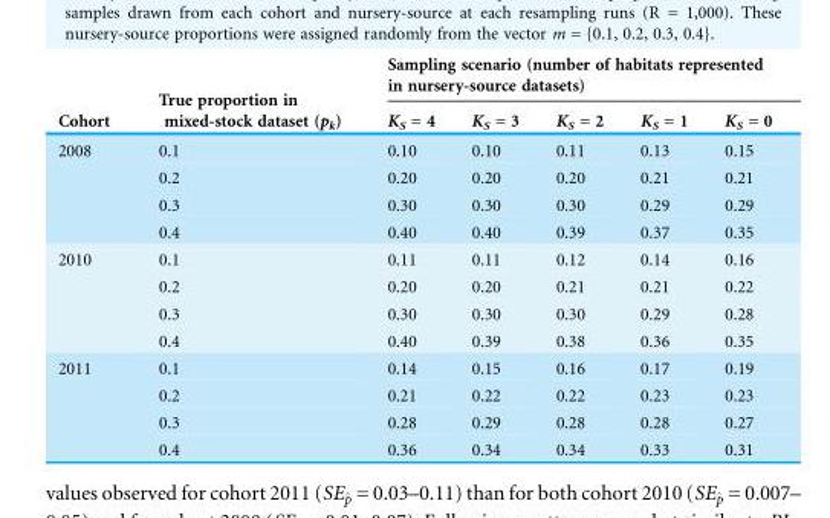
<table><thead><tr><td rowspan="2">Cohort</td><td rowspan="2">True proportion in mixed-stock dataset (p<sub>k</sub>)</td><td colspan="5">Sampling scenario (number of habitats represented in nursery-source datasets)</td></tr><tr><td>K<sub>S</sub> = 4</td><td>K<sub>S</sub> = 3</td><td>K<sub>S</sub> = 2</td><td>K<sub>S</sub> = 1</td><td>K<sub>S</sub> = 0</td></tr></thead><tbody><tr><td rowspan="4">2008</td><td>0.1</td><td>0.10</td><td>0.10</td><td>0.11</td><td>0.13</td><td>0.15</td></tr><tr><td>0.2</td><td>0.20</td><td>0.20</td><td>0.20</td><td>0.21</td><td>0.21</td></tr><tr><td>0.3</td><td>0.30</td><td>0.30</td><td>0.30</td><td>0.29</td><td>0.29</td></tr><tr><td>0.4</td><td>0.40</td><td>0.40</td><td>0.39</td><td>0.37</td><td>0.35</td></tr><tr><td rowspan="4">2010</td><td>0.1</td><td>0.11</td><td>0.11</td><td>0.12</td><td>0.14</td><td>0.16</td></tr><tr><td>0.2</td><td>0.20</td><td>0.20</td><td>0.21</td><td>0.21</td><td>0.22</td></tr><tr><td>0.3</td><td>0.30</td><td>0.30</td><td>0.30</td><td>0.29</td><td>0.28</td></tr><tr><td>0.4</td><td>0.40</td><td>0.39</td><td>0.38</td><td>0.36</td><td>0.35</td></tr><tr><td rowspan="4">2011</td><td>0.1</td><td>0.14</td><td>0.15</td><td>0.16</td><td>0.17</td><td>0.19</td></tr><tr><td>0.2</td><td>0.21</td><td>0.22</td><td>0.22</td><td>0.23</td><td>0.23</td></tr><tr><td>0.3</td><td>0.28</td><td>0.29</td><td>0.28</td><td>0.28</td><td>0.27</td></tr><tr><td>0.4</td><td>0.36</td><td>0.34</td><td>0.34</td><td>0.33</td><td>0.31</td></tr></tbody></table>